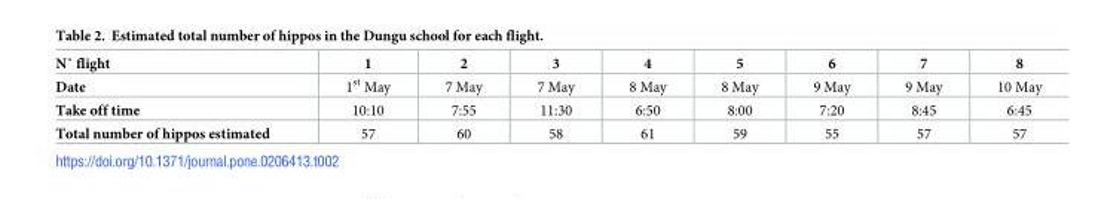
<table><thead><tr><td>N˚ flight</td><td>1</td><td>2</td><td>3</td><td>4</td><td>5</td><td>6</td><td>7</td><td>8</td></tr></thead><tbody><tr><td>Date</td><td>1<sup>st</sup> May</td><td>7 May</td><td>7 May</td><td>8 May</td><td>8 May</td><td>9 May</td><td>9 May</td><td>10 May</td></tr><tr><td>Take off time</td><td>10:10</td><td>7:55</td><td>11:30</td><td>6:50</td><td>8:00</td><td>7:20</td><td>8:45</td><td>6:45</td></tr><tr><td>Total number of hippos estimated</td><td>57</td><td>60</td><td>58</td><td>61</td><td>59</td><td>55</td><td>57</td><td>57</td></tr></tbody></table>